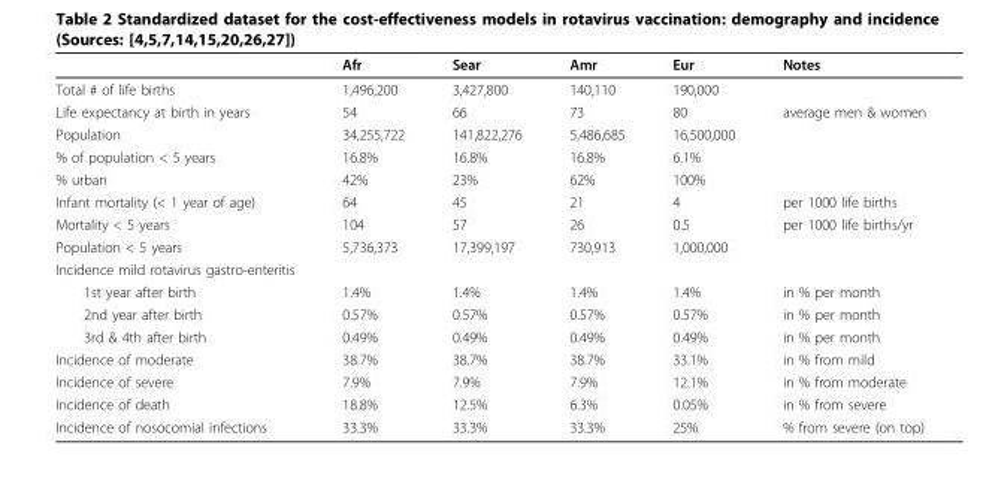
<table><thead><tr><td></td><td>Afr</td><td>Sear</td><td>Amr</td><td>Eur</td><td>Notes</td></tr></thead><tbody><tr><td>Total # of life births</td><td>1,496,200</td><td>3,427,800</td><td>140,110</td><td>190,000</td><td></td></tr><tr><td>Life expectancy at birth in years</td><td>54</td><td>66</td><td>73</td><td>80</td><td>average men &amp; women</td></tr><tr><td>Population</td><td>34,255,722</td><td>141,822,276</td><td>5,486,685</td><td>16,500,000</td><td></td></tr><tr><td>% of population &lt; 5 years</td><td>16.8%</td><td>16.8%</td><td>16.8%</td><td>6.1%</td><td></td></tr><tr><td>% urban</td><td>42%</td><td>23%</td><td>62%</td><td>100%</td><td></td></tr><tr><td>Infant mortality (&lt; 1 year of age)</td><td>64</td><td>45</td><td>21</td><td>4</td><td>per 1000 life births</td></tr><tr><td>Mortality &lt; 5 years</td><td>104</td><td>57</td><td>26</td><td>0.5</td><td>per 1000 life births/yr</td></tr><tr><td>Population &lt; 5 years</td><td>5,736,373</td><td>17,399,197</td><td>730,913</td><td>1,000,000</td><td></td></tr><tr><td colspan="6">Incidence mild rotavirus gastro-enteritis</td></tr><tr><td>1st year after birth</td><td>1.4%</td><td>1.4%</td><td>1.4%</td><td>1.4%</td><td>in % per month</td></tr><tr><td>2nd year after birth</td><td>0.57%</td><td>0.57%</td><td>0.57%</td><td>0.57%</td><td>in % per month</td></tr><tr><td>3rd &amp; 4th after birth</td><td>0.49%</td><td>0.49%</td><td>0.49%</td><td>0.49%</td><td>in % per month</td></tr><tr><td>Incidence of moderate</td><td>38.7%</td><td>38.7%</td><td>38.7%</td><td>33.1%</td><td>in % from mild</td></tr><tr><td>Incidence of severe</td><td>7.9%</td><td>7.9%</td><td>7.9%</td><td>12.1%</td><td>in % from moderate</td></tr><tr><td>Incidence of death</td><td>18.8%</td><td>12.5%</td><td>6.3%</td><td>0.05%</td><td>in % from severe</td></tr><tr><td>Incidence of nosocomial infections</td><td>33.3%</td><td>33.3%</td><td>33.3%</td><td>25%</td><td>% from severe (on top)</td></tr></tbody></table>